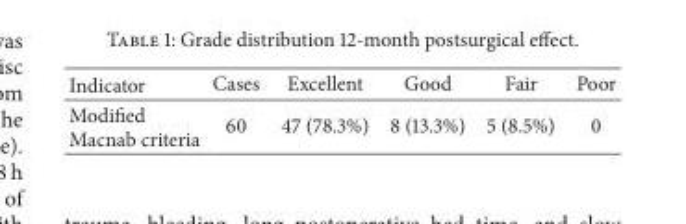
<table><thead><tr><td>Indicator</td><td>Cases</td><td>Excellent</td><td>Good</td><td>Fair</td><td>Poor</td></tr></thead><tbody><tr><td>Modified Macnab criteria</td><td>60</td><td>47 (78.3%)</td><td>8 (13.3%)</td><td>5 (8.5%)</td><td>0</td></tr></tbody></table>